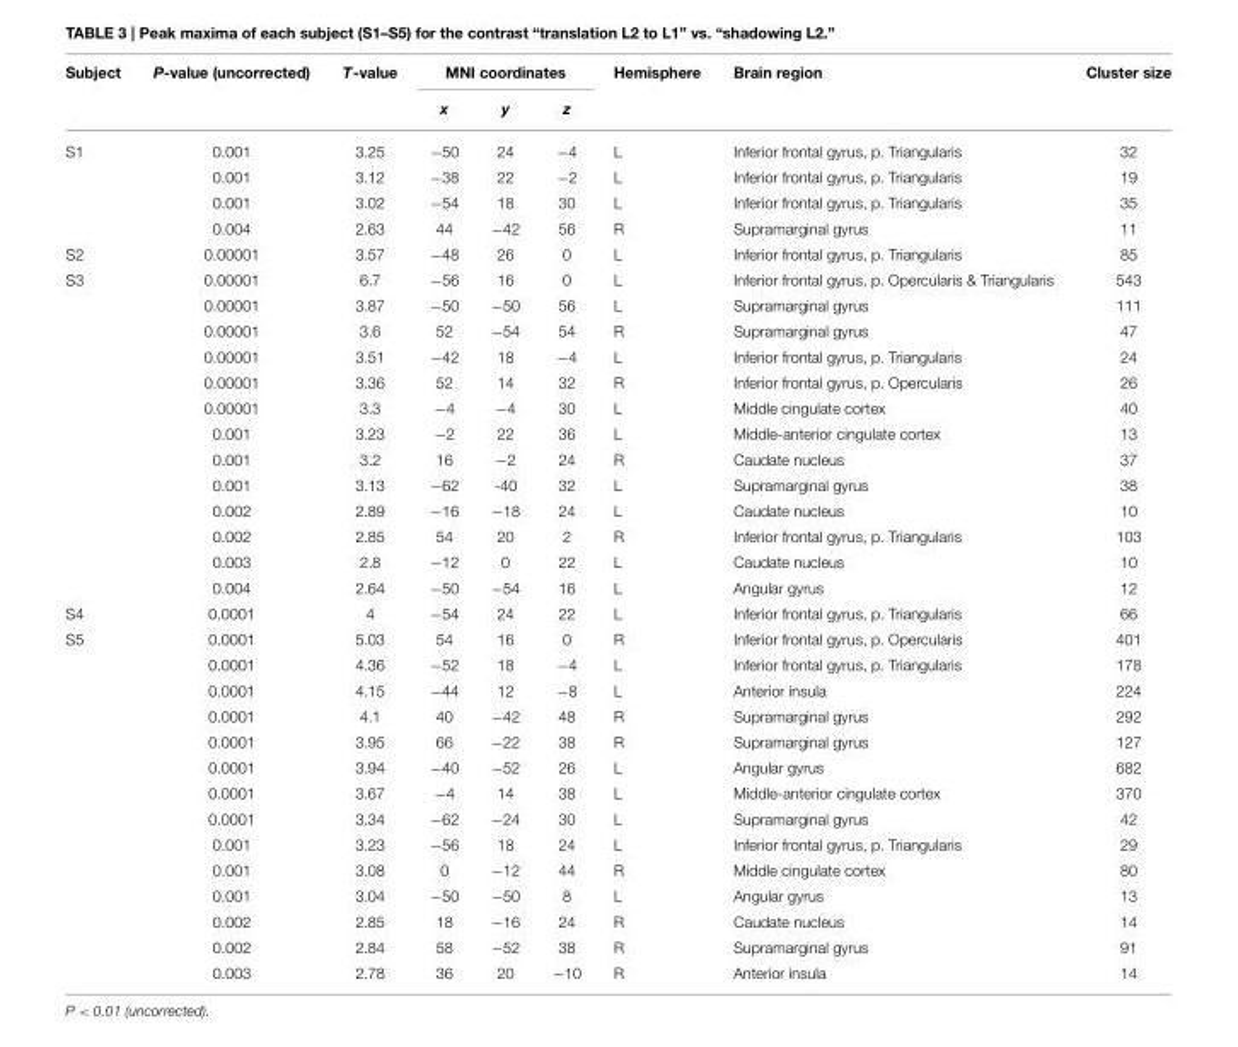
<table><thead><tr><td rowspan="2">Subject</td><td rowspan="2">P-value (uncorrected)</td><td rowspan="2">T-value</td><td colspan="3">MNI coordinates</td><td rowspan="2">Hemisphere</td><td rowspan="2">Brain region</td><td rowspan="2">Cluster size</td></tr><tr><td>x</td><td>y</td><td>z</td></tr></thead><tbody><tr><td rowspan="4">S1</td><td>0.001</td><td>3.25</td><td>−50</td><td>24</td><td>−4</td><td>L</td><td>Inferior frontal gyrus, p. Triangularis</td><td>32</td></tr><tr><td>0.001</td><td>3.12</td><td>−38</td><td>22</td><td>−2</td><td>L</td><td>Inferior frontal gyrus, p. Triangularis</td><td>19</td></tr><tr><td>0.001</td><td>3.02</td><td>−54</td><td>18</td><td>30</td><td>L</td><td>Inferior frontal gyrus, p. Triangularis</td><td>35</td></tr><tr><td>0.004</td><td>2.63</td><td>44</td><td>−42</td><td>56</td><td>R</td><td>Supramarginal gyrus</td><td>11</td></tr><tr><td>S2</td><td>0.00001</td><td>3.57</td><td>−48</td><td>26</td><td>0</td><td>L</td><td>Inferior frontal gyrus, p. Triangularis</td><td>85</td></tr><tr><td rowspan="13">S3</td><td>0.00001</td><td>6.7</td><td>−56</td><td>16</td><td>0</td><td>L</td><td>Inferior frontal gyrus, p. Opercularis &amp; Triangularis</td><td>543</td></tr><tr><td>0.00001</td><td>3.87</td><td>−50</td><td>−50</td><td>56</td><td>L</td><td>Supramarginal gyrus</td><td>111</td></tr><tr><td>0.00001</td><td>3.6</td><td>52</td><td>−54</td><td>54</td><td>R</td><td>Supramarginal gyrus</td><td>47</td></tr><tr><td>0.00001</td><td>3.51</td><td>−42</td><td>18</td><td>−4</td><td>L</td><td>Inferior frontal gyrus, p. Triangularis</td><td>24</td></tr><tr><td>0.00001</td><td>3.36</td><td>52</td><td>14</td><td>32</td><td>R</td><td>Inferior frontal gyrus, p. Opercularis</td><td>26</td></tr><tr><td>0.00001</td><td>3.3</td><td>−4</td><td>−4</td><td>30</td><td>L</td><td>Middle cingulate cortex</td><td>40</td></tr><tr><td>0.001</td><td>3.23</td><td>−2</td><td>22</td><td>36</td><td>L</td><td>Middle-anterior cingulate cortex</td><td>13</td></tr><tr><td>0.001</td><td>3.2</td><td>16</td><td>−2</td><td>24</td><td>R</td><td>Caudate nucleus</td><td>37</td></tr><tr><td>0.001</td><td>3.13</td><td>−62</td><td>-40</td><td>32</td><td>L</td><td>Supramarginal gyrus</td><td>38</td></tr><tr><td>0.002</td><td>2.89</td><td>−16</td><td>−18</td><td>24</td><td>L</td><td>Caudate nucleus</td><td>10</td></tr><tr><td>0.002</td><td>2.85</td><td>54</td><td>20</td><td>2</td><td>R</td><td>Inferior frontal gyrus, p. Triangularis</td><td>103</td></tr><tr><td>0.003</td><td>2.8</td><td>−12</td><td>0</td><td>22</td><td>L</td><td>Caudate nucleus</td><td>10</td></tr><tr><td>0.004</td><td>2.64</td><td>−50</td><td>−54</td><td>16</td><td>L</td><td>Angular gyrus</td><td>12</td></tr><tr><td>S4</td><td>0.0001</td><td>4</td><td>−54</td><td>24</td><td>22</td><td>L</td><td>Inferior frontal gyrus, p. Triangularis</td><td>66</td></tr><tr><td rowspan="14">S5</td><td>0.0001</td><td>5.03</td><td>54</td><td>16</td><td>0</td><td>R</td><td>Inferior frontal gyrus, p. Opercularis</td><td>401</td></tr><tr><td>0.0001</td><td>4.36</td><td>−52</td><td>18</td><td>−4</td><td>L</td><td>Inferior frontal gyrus, p. Triangularis</td><td>178</td></tr><tr><td>0.0001</td><td>4.15</td><td>−44</td><td>12</td><td>−8</td><td>L</td><td>Anterior insula</td><td>224</td></tr><tr><td>0.0001</td><td>4.1</td><td>40</td><td>−42</td><td>48</td><td>R</td><td>Supramarginal gyrus</td><td>292</td></tr><tr><td>0.0001</td><td>3.95</td><td>66</td><td>−22</td><td>38</td><td>R</td><td>Supramarginal gyrus</td><td>127</td></tr><tr><td>0.0001</td><td>3.94</td><td>−40</td><td>−52</td><td>26</td><td>L</td><td>Angular gyrus</td><td>682</td></tr><tr><td>0.0001</td><td>3.67</td><td>−4</td><td>14</td><td>38</td><td>L</td><td>Middle-anterior cingulate cortex</td><td>370</td></tr><tr><td>0.0001</td><td>3.34</td><td>−62</td><td>−24</td><td>30</td><td>L</td><td>Supramarginal gyrus</td><td>42</td></tr><tr><td>0.001</td><td>3.23</td><td>−56</td><td>18</td><td>24</td><td>L</td><td>Inferior frontal gyrus, p. Triangularis</td><td>29</td></tr><tr><td>0.001</td><td>3.08</td><td>0</td><td>−12</td><td>44</td><td>R</td><td>Middle cingulate cortex</td><td>80</td></tr><tr><td>0.001</td><td>3.04</td><td>−50</td><td>−50</td><td>8</td><td>L</td><td>Angular gyrus</td><td>13</td></tr><tr><td>0.002</td><td>2.85</td><td>18</td><td>−16</td><td>24</td><td>R</td><td>Caudate nucleus</td><td>14</td></tr><tr><td>0.002</td><td>2.84</td><td>58</td><td>−52</td><td>38</td><td>R</td><td>Supramarginal gyrus</td><td>91</td></tr><tr><td>0.003</td><td>2.78</td><td>36</td><td>20</td><td>−10</td><td>R</td><td>Anterior insula</td><td>14</td></tr></tbody></table>